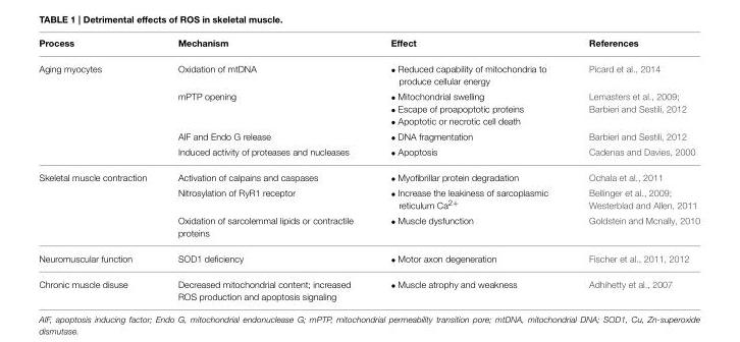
<table><thead><tr><td>Process</td><td>Mechanism</td><td>Effect</td><td>References</td></tr></thead><tbody><tr><td rowspan="4">Aging myocytes</td><td>Oxidation of mtDNA</td><td>• Reduced capability of mitochondria to produce cellular energy</td><td>Picard et al., 2014</td></tr><tr><td>mPTP opening</td><td>• Mitochondrial swelling • Escape of proapoptotic proteins • Apoptotic or necrotic cell death</td><td>Lemasters et al., 2009; Barbieri and Sestili, 2012</td></tr><tr><td>AIF and Endo G release</td><td>• DNA fragmentation</td><td>Barbieri and Sestili, 2012</td></tr><tr><td>Induced activity of proteases and nucleases</td><td>• Apoptosis</td><td>Cadenas and Davies, 2000</td></tr><tr><td rowspan="3">Skeletal muscle contraction</td><td>Activation of calpains and caspases</td><td>• Myofibrillar protein degradation</td><td>Ochala et al., 2011</td></tr><tr><td>Nitrosylation of RyR1 receptor</td><td>• Increase the leakiness of sarcoplasmic reticulum Ca2+</td><td>Bellinger et al., 2009; Westerblad and Allen, 2011</td></tr><tr><td>Oxidation of sarcolemmal lipids or contractile proteins</td><td>• Muscle dysfunction</td><td>Goldstein and Mcnally, 2010</td></tr><tr><td>Neuromuscular function</td><td>SOD1 deficiency</td><td>• Motor axon degeneration</td><td>Fischer et al., 2011, 2012</td></tr><tr><td>Chronic muscle disuse</td><td>Decreased mitochondrial content; increased ROS production and apoptosis signaling</td><td>• Muscle atrophy and weakness</td><td>Adhihetty et al., 2007</td></tr></tbody></table>